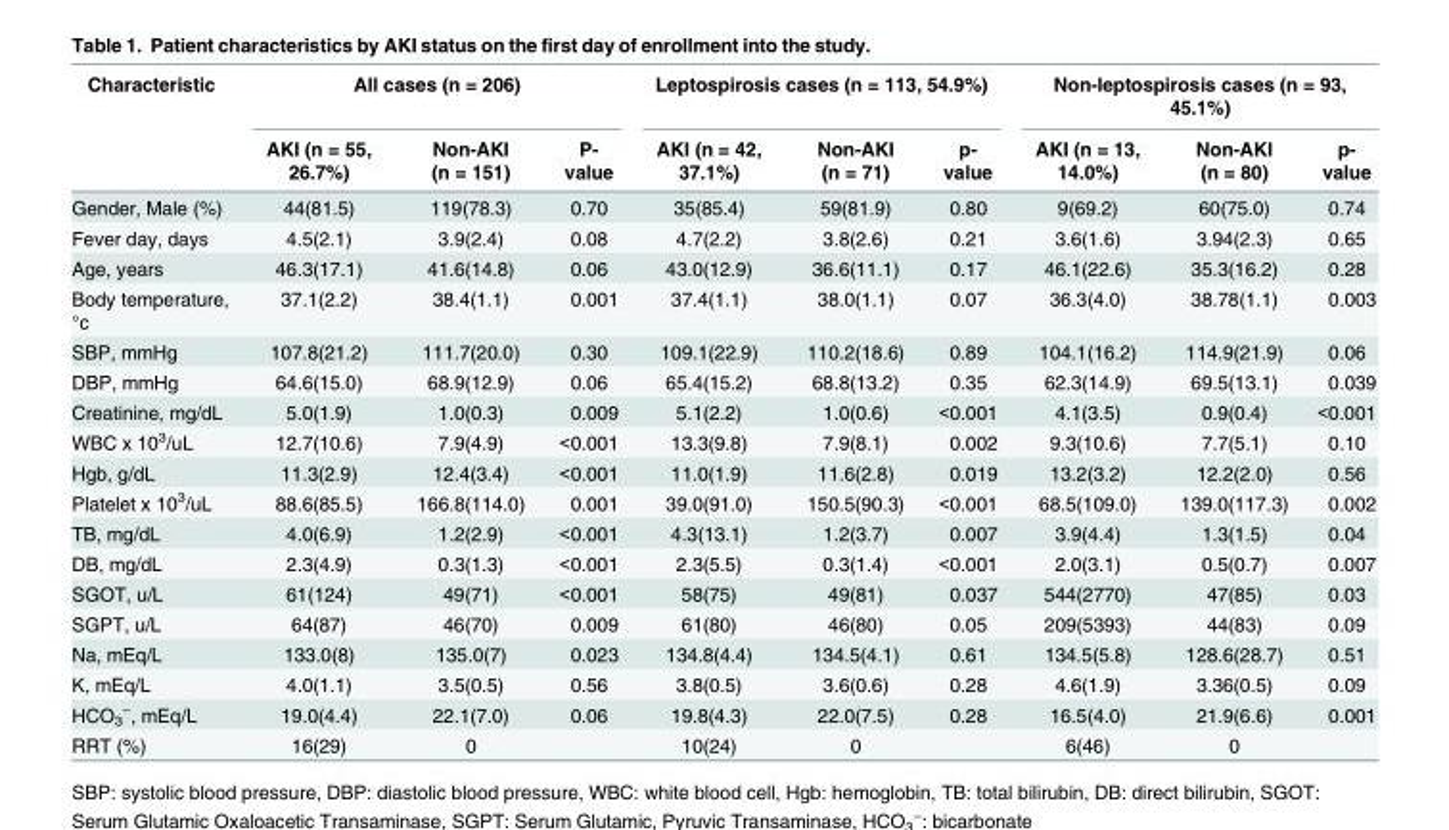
<table><thead><tr><td rowspan="2">Characteristic</td><td colspan="3">All cases (n = 206)</td><td colspan="3">Leptospirosis cases (n = 113, 54.9%)</td><td colspan="3">Non-leptospirosis cases (n = 93, 45.1%)</td></tr><tr><td>AKI (n = 55, 26.7%)</td><td>Non-AKI (n = 151)</td><td>P- value</td><td>AKI (n = 42, 37.1%)</td><td>Non-AKI (n = 71)</td><td>p- value</td><td>AKI (n = 13, 14.0%)</td><td>Non-AKI (n = 80)</td><td>p- value</td></tr></thead><tbody><tr><td>Gender, Male (%)</td><td>44(81.5)</td><td>119(78.3)</td><td>0.70</td><td>35(85.4)</td><td>59(81.9)</td><td>0.80</td><td>9(69.2)</td><td>60(75.0)</td><td>0.74</td></tr><tr><td>Fever day, days</td><td>4.5(2.1)</td><td>3.9(2.4)</td><td>0.08</td><td>4.7(2.2)</td><td>3.8(2.6)</td><td>0.21</td><td>3.6(1.6)</td><td>3.94(2.3)</td><td>0.65</td></tr><tr><td>Age, years</td><td>46.3(17.1)</td><td>41.6(14.8)</td><td>0.06</td><td>43.0(12.9)</td><td>36.6(11.1)</td><td>0.17</td><td>46.1(22.6)</td><td>35.3(16.2)</td><td>0.28</td></tr><tr><td>Body temperature, °c</td><td>37.1(2.2)</td><td>38.4(1.1)</td><td>0.001</td><td>37.4(1.1)</td><td>38.0(1.1)</td><td>0.07</td><td>36.3(4.0)</td><td>38.78(1.1)</td><td>0.003</td></tr><tr><td>SBP, mmHg</td><td>107.8(21.2)</td><td>111.7(20.0)</td><td>0.30</td><td>109.1(22.9)</td><td>110.2(18.6)</td><td>0.89</td><td>104.1(16.2)</td><td>114.9(21.9)</td><td>0.06</td></tr><tr><td>DBP, mmHg</td><td>64.6(15.0)</td><td>68.9(12.9)</td><td>0.06</td><td>65.4(15.2)</td><td>68.8(13.2)</td><td>0.35</td><td>62.3(14.9)</td><td>69.5(13.1)</td><td>0.039</td></tr><tr><td>Creatinine, mg/dL</td><td>5.0(1.9)</td><td>1.0(0.3)</td><td>0.009</td><td>5.1(2.2)</td><td>1.0(0.6)</td><td>&lt;0.001</td><td>4.1(3.5)</td><td>0.9(0.4)</td><td>&lt;0.001</td></tr><tr><td>WBC x 10<sup>3</sup>/uL</td><td>12.7(10.6)</td><td>7.9(4.9)</td><td>&lt;0.001</td><td>13.3(9.8)</td><td>7.9(8.1)</td><td>0.002</td><td>9.3(10.6)</td><td>7.7(5.1)</td><td>0.10</td></tr><tr><td>Hgb, g/dL</td><td>11.3(2.9)</td><td>12.4(3.4)</td><td>&lt;0.001</td><td>11.0(1.9)</td><td>11.6(2.8)</td><td>0.019</td><td>13.2(3.2)</td><td>12.2(2.0)</td><td>0.56</td></tr><tr><td>Platelet x 10<sup>3</sup>/uL</td><td>88.6(85.5)</td><td>166.8(114.0)</td><td>0.001</td><td>39.0(91.0)</td><td>150.5(90.3)</td><td>&lt;0.001</td><td>68.5(109.0)</td><td>139.0(117.3)</td><td>0.002</td></tr><tr><td>TB, mg/dL</td><td>4.0(6.9)</td><td>1.2(2.9)</td><td>&lt;0.001</td><td>4.3(13.1)</td><td>1.2(3.7)</td><td>0.007</td><td>3.9(4.4)</td><td>1.3(1.5)</td><td>0.04</td></tr><tr><td>DB, mg/dL</td><td>2.3(4.9)</td><td>0.3(1.3)</td><td>&lt;0.001</td><td>2.3(5.5)</td><td>0.3(1.4)</td><td>&lt;0.001</td><td>2.0(3.1)</td><td>0.5(0.7)</td><td>0.007</td></tr><tr><td>SGOT, u/L</td><td>61(124)</td><td>49(71)</td><td>&lt;0.001</td><td>58(75)</td><td>49(81)</td><td>0.037</td><td>544(2770)</td><td>47(85)</td><td>0.03</td></tr><tr><td>SGPT, u/L</td><td>64(87)</td><td>46(70)</td><td>0.009</td><td>61(80)</td><td>46(80)</td><td>0.05</td><td>209(5393)</td><td>44(83)</td><td>0.09</td></tr><tr><td>Na, mEq/L</td><td>133.0(8)</td><td>135.0(7)</td><td>0.023</td><td>134.8(4.4)</td><td>134.5(4.1)</td><td>0.61</td><td>134.5(5.8)</td><td>128.6(28.7)</td><td>0.51</td></tr><tr><td>K, mEq/L</td><td>4.0(1.1)</td><td>3.5(0.5)</td><td>0.56</td><td>3.8(0.5)</td><td>3.6(0.6)</td><td>0.28</td><td>4.6(1.9)</td><td>3.36(0.5)</td><td>0.09</td></tr><tr><td>HCO<sub>3</sub> <sup>−</sup>, mEq/L</td><td>19.0(4.4)</td><td>22.1(7.0)</td><td>0.06</td><td>19.8(4.3)</td><td>22.0(7.5)</td><td>0.28</td><td>16.5(4.0)</td><td>21.9(6.6)</td><td>0.001</td></tr><tr><td>RRT (%)</td><td>16(29)</td><td>0</td><td></td><td>10(24)</td><td>0</td><td></td><td>6(46)</td><td>0</td><td></td></tr></tbody></table>